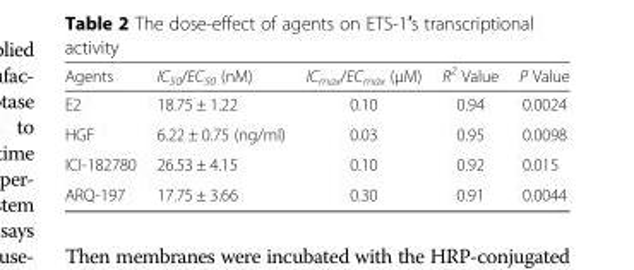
<table><thead><tr><td>Agents</td><td>IC<sub>50</sub>/EC<sub>50</sub> (nM)</td><td>IC<sub>max</sub>/EC<sub>max</sub> (μM)</td><td>R<sup>2</sup> Value</td><td>P Value</td></tr></thead><tbody><tr><td>E2</td><td>18.75 ± 1.22</td><td>0.10</td><td>0.94</td><td>0.0024</td></tr><tr><td>HGF</td><td>6.22 ± 0.75 (ng/ml)</td><td>0.03</td><td>0.95</td><td>0.0098</td></tr><tr><td>ICI-182780</td><td>26.53 ± 4.15</td><td>0.10</td><td>0.92</td><td>0.015</td></tr><tr><td>ARQ-197</td><td>17.75 ± 3.66</td><td>0.30</td><td>0.91</td><td>0.0044</td></tr></tbody></table>